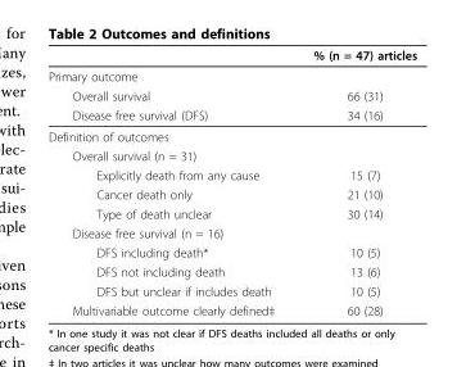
<table><thead><tr><td></td><td>% (n = 47) articles</td></tr></thead><tbody><tr><td colspan="2">Primary outcome</td></tr><tr><td>Overall survival</td><td>66 (31)</td></tr><tr><td>Disease free survival (DFS)</td><td>34 (16)</td></tr><tr><td colspan="2">Definition of outcomes</td></tr><tr><td colspan="2">Overall survival (n = 31)</td></tr><tr><td>Explicitly death from any cause</td><td>15 (7)</td></tr><tr><td>Cancer death only</td><td>21 (10)</td></tr><tr><td>Type of death unclear</td><td>30 (14)</td></tr><tr><td colspan="2">Disease free survival (n = 16)</td></tr><tr><td>DFS including death*</td><td>10 (5)</td></tr><tr><td>DFS not including death</td><td>13 (6)</td></tr><tr><td>DFS but unclear if includes death</td><td>10 (5)</td></tr><tr><td>Multivariable outcome clearly defined‡</td><td>60 (28)</td></tr></tbody></table>